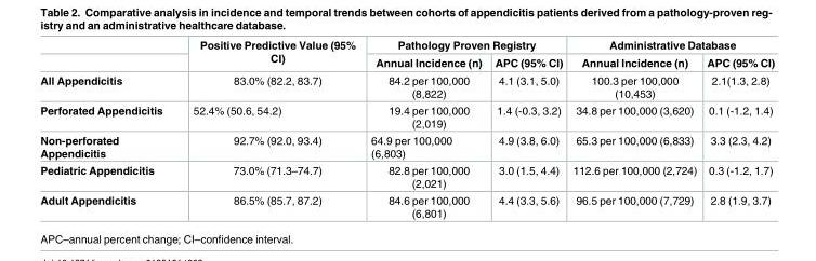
<table><thead><tr><td rowspan="2"></td><td rowspan="2">Positive Predictive Value (95% CI)</td><td colspan="2">Pathology Proven Registry</td><td colspan="2">Administrative Database</td></tr><tr><td>Annual Incidence (n)</td><td>APC (95% CI)</td><td>Annual Incidence (n)</td><td>APC (95% CI)</td></tr></thead><tbody><tr><td>All Appendicitis</td><td>83.0% (82.2, 83.7)</td><td>84.2 per 100,000 (8,822)</td><td>4.1 (3.1, 5.0)</td><td>100.3 per 100,000 (10,453)</td><td>2.1(1.3, 2.8)</td></tr><tr><td>Perforated Appendicitis</td><td>52.4% (50.6, 54.2)</td><td>19.4 per 100,000 (2,019)</td><td>1.4 (-0.3, 3.2)</td><td>34.8 per 100,000 (3,620)</td><td>0.1 (-1.2, 1.4)</td></tr><tr><td>Non-perforated Appendicitis</td><td>92.7% (92.0, 93.4)</td><td>64.9 per 100,000 (6,803)</td><td>4.9 (3.8, 6.0)</td><td>65.3 per 100,000 (6,833)</td><td>3.3 (2.3, 4.2)</td></tr><tr><td>Pediatric Appendicitis</td><td>73.0% (71.3–74.7)</td><td>82.8 per 100,000 (2,021)</td><td>3.0 (1.5, 4.4)</td><td>112.6 per 100,000 (2,724)</td><td>0.3 (-1.2, 1.7)</td></tr><tr><td>Adult Appendicitis</td><td>86.5% (85.7, 87.2)</td><td>84.6 per 100,000 (6,801)</td><td>4.4 (3.3, 5.6)</td><td>96.5 per 100,000 (7,729)</td><td>2.8 (1.9, 3.7)</td></tr></tbody></table>